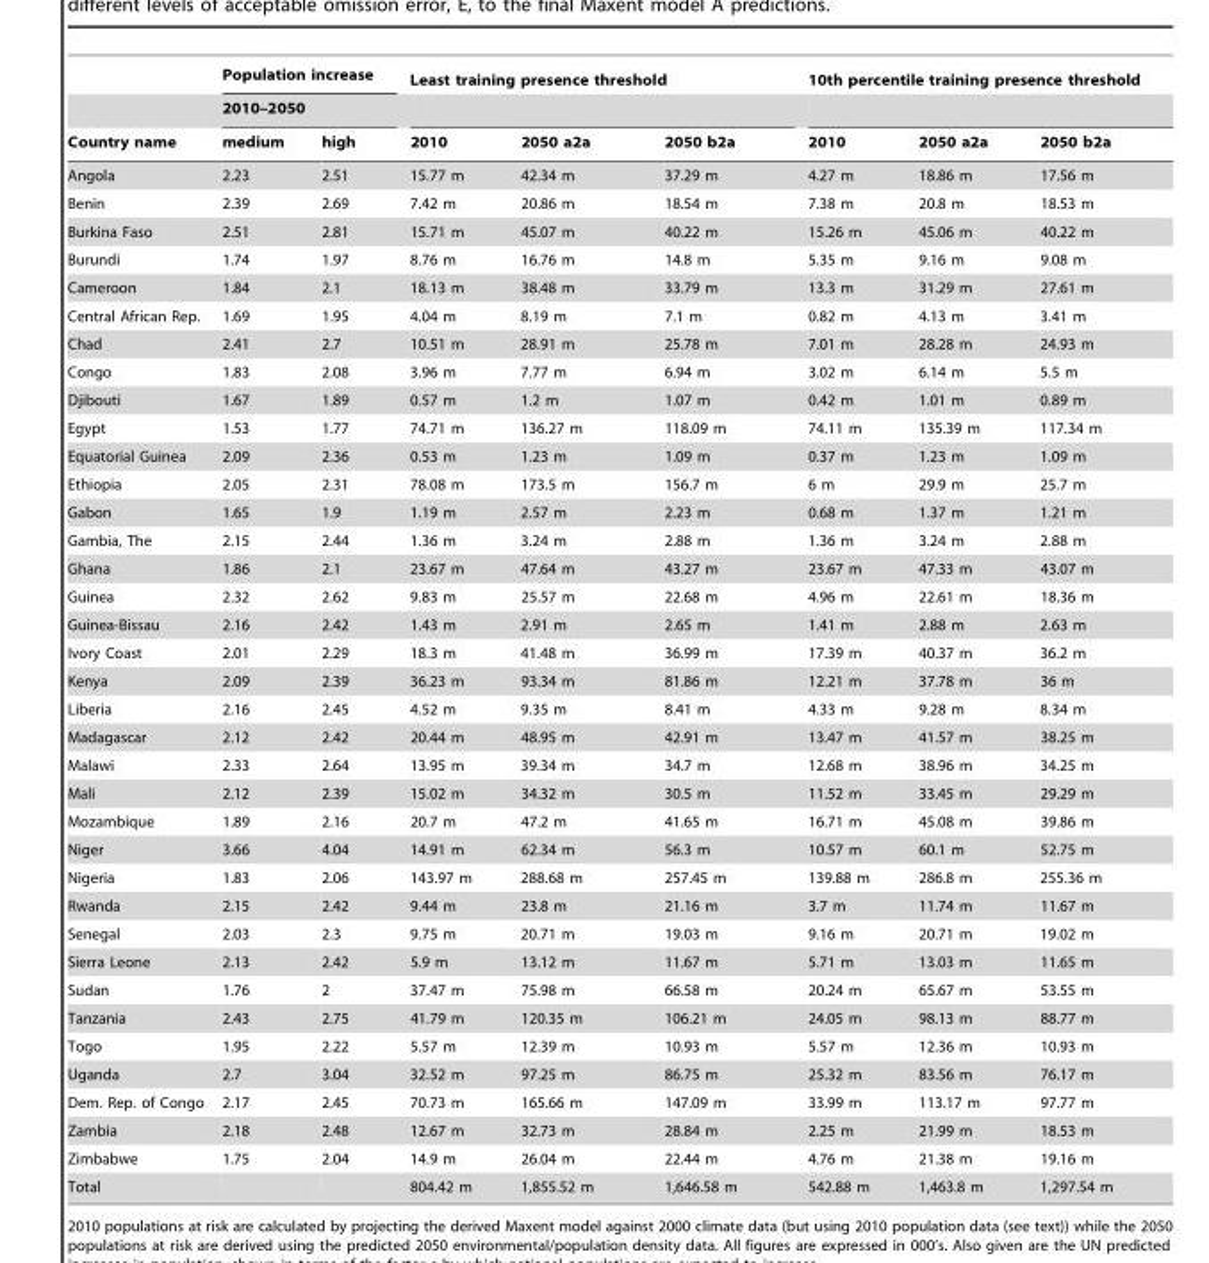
<table><thead><tr><td rowspan="3">Country name</td><td rowspan="2" colspan="2">Population increase 2010–2050</td><td colspan="3">Least training presence threshold</td><td colspan="3">10th percentile training presence threshold</td></tr><tr><td rowspan="2">2010</td><td rowspan="2">2050 a2a</td><td rowspan="2">2050 b2a</td><td rowspan="2">2010</td><td rowspan="2">2050 a2a</td><td rowspan="2">2050 b2a</td></tr><tr><td>medium</td><td>high</td></tr></thead><tbody><tr><td>Angola</td><td>2.23</td><td>2.51</td><td>15.77 m</td><td>42.34 m</td><td>37.29 m</td><td>4.27 m</td><td>18.86 m</td><td>17.56 m</td></tr><tr><td>Benin</td><td>2.39</td><td>2.69</td><td>7.42 m</td><td>20.86 m</td><td>18.54 m</td><td>7.38 m</td><td>20.8 m</td><td>18.53 m</td></tr><tr><td>Burkina Faso</td><td>2.51</td><td>2.81</td><td>15.71 m</td><td>45.07 m</td><td>40.22 m</td><td>15.26 m</td><td>45.06 m</td><td>40.22 m</td></tr><tr><td>Burundi</td><td>1.74</td><td>1.97</td><td>8.76 m</td><td>16.76 m</td><td>14.8 m</td><td>5.35 m</td><td>9.16 m</td><td>9.08 m</td></tr><tr><td>Cameroon</td><td>1.84</td><td>2.1</td><td>18.13 m</td><td>38.48 m</td><td>33.79 m</td><td>13.3 m</td><td>31.29 m</td><td>27.61 m</td></tr><tr><td>Central African Rep.</td><td>1.69</td><td>1.95</td><td>4.04 m</td><td>8.19 m</td><td>7.1 m</td><td>0.82 m</td><td>4.13 m</td><td>3.41 m</td></tr><tr><td>Chad</td><td>2.41</td><td>2.7</td><td>10.51 m</td><td>28.91 m</td><td>25.78 m</td><td>7.01 m</td><td>28.28 m</td><td>24.93 m</td></tr><tr><td>Congo</td><td>1.83</td><td>2.08</td><td>3.96 m</td><td>7.77 m</td><td>6.94 m</td><td>3.02 m</td><td>6.14 m</td><td>5.5 m</td></tr><tr><td>Djibouti</td><td>1.67</td><td>1.89</td><td>0.57 m</td><td>1.2 m</td><td>1.07 m</td><td>0.42 m</td><td>1.01 m</td><td>0.89 m</td></tr><tr><td>Egypt</td><td>1.53</td><td>1.77</td><td>74.71 m</td><td>136.27 m</td><td>118.09 m</td><td>74.11 m</td><td>135.39 m</td><td>117.34 m</td></tr><tr><td>Equatorial Guinea</td><td>2.09</td><td>2.36</td><td>0.53 m</td><td>1.23 m</td><td>1.09 m</td><td>0.37 m</td><td>1.23 m</td><td>1.09 m</td></tr><tr><td>Ethiopia</td><td>2.05</td><td>2.31</td><td>78.08 m</td><td>173.5 m</td><td>156.7 m</td><td>6 m</td><td>29.9 m</td><td>25.7 m</td></tr><tr><td>Gabon</td><td>1.65</td><td>1.9</td><td>1.19 m</td><td>2.57 m</td><td>2.23 m</td><td>0.68 m</td><td>1.37 m</td><td>1.21 m</td></tr><tr><td>Gambia, The</td><td>2.15</td><td>2.44</td><td>1.36 m</td><td>3.24 m</td><td>2.88 m</td><td>1.36 m</td><td>3.24 m</td><td>2.88 m</td></tr><tr><td>Ghana</td><td>1.86</td><td>2.1</td><td>23.67 m</td><td>47.64 m</td><td>43.27 m</td><td>23.67 m</td><td>47.33 m</td><td>43.07 m</td></tr><tr><td>Guinea</td><td>2.32</td><td>2.62</td><td>9.83 m</td><td>25.57 m</td><td>22.68 m</td><td>4.96 m</td><td>22.61 m</td><td>18.36 m</td></tr><tr><td>Guinea-Bissau</td><td>2.16</td><td>2.42</td><td>1.43 m</td><td>2.91 m</td><td>2.65 m</td><td>1.41 m</td><td>2.88 m</td><td>2.63 m</td></tr><tr><td>Ivory Coast</td><td>2.01</td><td>2.29</td><td>18.3 m</td><td>41.48 m</td><td>36.99 m</td><td>17.39 m</td><td>40.37 m</td><td>36.2 m</td></tr><tr><td>Kenya</td><td>2.09</td><td>2.39</td><td>36.23 m</td><td>93.34 m</td><td>81.86 m</td><td>12.21 m</td><td>37.78 m</td><td>36 m</td></tr><tr><td>Liberia</td><td>2.16</td><td>2.45</td><td>4.52 m</td><td>9.35 m</td><td>8.41 m</td><td>4.33 m</td><td>9.28 m</td><td>8.34 m</td></tr><tr><td>Madagascar</td><td>2.12</td><td>2.42</td><td>20.44 m</td><td>48.95 m</td><td>42.91 m</td><td>13.47 m</td><td>41.57 m</td><td>38.25 m</td></tr><tr><td>Malawi</td><td>2.33</td><td>2.64</td><td>13.95 m</td><td>39.34 m</td><td>34.7 m</td><td>12.68 m</td><td>38.96 m</td><td>34.25 m</td></tr><tr><td>Mali</td><td>2.12</td><td>2.39</td><td>15.02 m</td><td>34.32 m</td><td>30.5 m</td><td>11.52 m</td><td>33.45 m</td><td>29.29 m</td></tr><tr><td>Mozambique</td><td>1.89</td><td>2.16</td><td>20.7 m</td><td>47.2 m</td><td>41.65 m</td><td>16.71 m</td><td>45.08 m</td><td>39.86 m</td></tr><tr><td>Niger</td><td>3.66</td><td>4.04</td><td>14.91 m</td><td>62.34 m</td><td>56.3 m</td><td>10.57 m</td><td>60.1 m</td><td>52.75 m</td></tr><tr><td>Nigeria</td><td>1.83</td><td>2.06</td><td>143.97 m</td><td>288.68 m</td><td>257.45 m</td><td>139.88 m</td><td>286.8 m</td><td>255.36 m</td></tr><tr><td>Rwanda</td><td>2.15</td><td>2.42</td><td>9.44 m</td><td>23.8 m</td><td>21.16 m</td><td>3.7 m</td><td>11.74 m</td><td>11.67 m</td></tr><tr><td>Senegal</td><td>2.03</td><td>2.3</td><td>9.75 m</td><td>20.71 m</td><td>19.03 m</td><td>9.16 m</td><td>20.71 m</td><td>19.02 m</td></tr><tr><td>Sierra Leone</td><td>2.13</td><td>2.42</td><td>5.9 m</td><td>13.12 m</td><td>11.67 m</td><td>5.71 m</td><td>13.03 m</td><td>11.65 m</td></tr><tr><td>Sudan</td><td>1.76</td><td>2</td><td>37.47 m</td><td>75.98 m</td><td>66.58 m</td><td>20.24 m</td><td>65.67 m</td><td>53.55 m</td></tr><tr><td>Tanzania</td><td>2.43</td><td>2.75</td><td>41.79 m</td><td>120.35 m</td><td>106.21 m</td><td>24.05 m</td><td>98.13 m</td><td>88.77 m</td></tr><tr><td>Togo</td><td>1.95</td><td>2.22</td><td>5.57 m</td><td>12.39 m</td><td>10.93 m</td><td>5.57 m</td><td>12.36 m</td><td>10.93 m</td></tr><tr><td>Uganda</td><td>2.7</td><td>3.04</td><td>32.52 m</td><td>97.25 m</td><td>86.75 m</td><td>25.32 m</td><td>83.56 m</td><td>76.17 m</td></tr><tr><td>Dem. Rep. of Congo</td><td>2.17</td><td>2.45</td><td>70.73 m</td><td>165.66 m</td><td>147.09 m</td><td>33.99 m</td><td>113.17 m</td><td>97.77 m</td></tr><tr><td>Zambia</td><td>2.18</td><td>2.48</td><td>12.67 m</td><td>32.73 m</td><td>28.84 m</td><td>2.25 m</td><td>21.99 m</td><td>18.53 m</td></tr><tr><td>Zimbabwe</td><td>1.75</td><td>2.04</td><td>14.9 m</td><td>26.04 m</td><td>22.44 m</td><td>4.76 m</td><td>21.38 m</td><td>19.16 m</td></tr><tr><td>Total</td><td></td><td></td><td>804.42 m</td><td>1,855.52 m</td><td>1,646.58 m</td><td>542.88 m</td><td>1,463.8 m</td><td>1,297.54 m</td></tr></tbody></table>